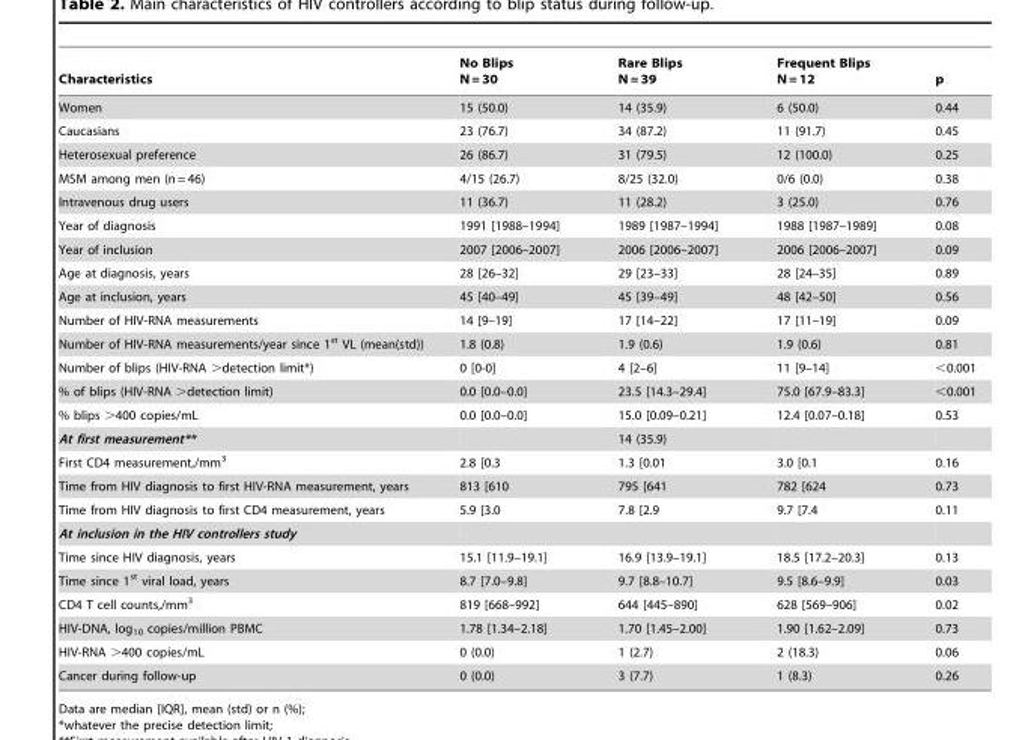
<table><thead><tr><td>Characteristics</td><td>No Blips N = 30</td><td>Rare Blips N = 39</td><td>Frequent Blips N = 12</td><td>p</td></tr></thead><tbody><tr><td>Women</td><td>15 (50.0)</td><td>14 (35.9)</td><td>6 (50.0)</td><td>0.44</td></tr><tr><td>Caucasians</td><td>23 (76.7)</td><td>34 (87.2)</td><td>11 (91.7)</td><td>0.45</td></tr><tr><td>Heterosexual preference</td><td>26 (86.7)</td><td>31 (79.5)</td><td>12 (100.0)</td><td>0.25</td></tr><tr><td>MSM among men (n = 46)</td><td>4/15 (26.7)</td><td>8/25 (32.0)</td><td>0/6 (0.0)</td><td>0.38</td></tr><tr><td>Intravenous drug users</td><td>11 (36.7)</td><td>11 (28.2)</td><td>3 (25.0)</td><td>0.76</td></tr><tr><td>Year of diagnosis</td><td>1991 [1988–1994]</td><td>1989 [1987–1994]</td><td>1988 [1987–1989]</td><td>0.08</td></tr><tr><td>Year of inclusion</td><td>2007 [2006–2007]</td><td>2006 [2006–2007]</td><td>2006 [2006–2007]</td><td>0.09</td></tr><tr><td>Age at diagnosis, years</td><td>28 [26–32]</td><td>29 [23–33]</td><td>28 [24–35]</td><td>0.89</td></tr><tr><td>Age at inclusion, years</td><td>45 [40–49]</td><td>45 [39–49]</td><td>48 [42–50]</td><td>0.56</td></tr><tr><td>Number of HIV-RNA measurements</td><td>14 [9–19]</td><td>17 [14–22]</td><td>17 [11–19]</td><td>0.09</td></tr><tr><td>Number of HIV-RNA measurements/year since 1<sup>st</sup> VL (mean(std))</td><td>1.8 (0.8)</td><td>1.9 (0.6)</td><td>1.9 (0.6)</td><td>0.81</td></tr><tr><td>Number of blips (HIV-RNA &gt;detection limit*)</td><td>0 [0-0]</td><td>4 [2–6]</td><td>11 [9–14]</td><td>&lt;0.001</td></tr><tr><td>% of blips (HIV-RNA &gt;detection limit)</td><td>0.0 [0.0–0.0]</td><td>23.5 [14.3–29.4]</td><td>75.0 [67.9–83.3]</td><td>&lt;0.001</td></tr><tr><td>% blips &gt;400 copies/mL</td><td>0.0 [0.0–0.0]</td><td>15.0 [0.09–0.21]</td><td>12.4 [0.07–0.18]</td><td>0.53</td></tr><tr><td>At first measurement**</td><td></td><td>14 (35.9)</td><td></td><td></td></tr><tr><td>First CD4 measurement,/mm<sup>3</sup></td><td>2.8 [0.3</td><td>1.3 [0.01</td><td>3.0 [0.1</td><td>0.16</td></tr><tr><td>Time from HIV diagnosis to first HIV-RNA measurement, years</td><td>813 [610</td><td>795 [641</td><td>782 [624</td><td>0.73</td></tr><tr><td>Time from HIV diagnosis to first CD4 measurement, years</td><td>5.9 [3.0</td><td>7.8 [2.9</td><td>9.7 [7.4</td><td>0.11</td></tr><tr><td colspan="5">At inclusion in the HIV controllers study</td></tr><tr><td>Time since HIV diagnosis, years</td><td>15.1 [11.9–19.1]</td><td>16.9 [13.9–19.1]</td><td>18.5 [17.2–20.3]</td><td>0.13</td></tr><tr><td>Time since 1<sup>st</sup> viral load, years</td><td>8.7 [7.0–9.8]</td><td>9.7 [8.8–10.7]</td><td>9.5 [8.6–9.9]</td><td>0.03</td></tr><tr><td>CD4 T cell counts,/mm<sup>3</sup></td><td>819 [668–992]</td><td>644 [445–890]</td><td>628 [569–906]</td><td>0.02</td></tr><tr><td>HIV-DNA, log<sub>10</sub> copies/million PBMC</td><td>1.78 [1.34–2.18]</td><td>1.70 [1.45–2.00]</td><td>1.90 [1.62–2.09]</td><td>0.73</td></tr><tr><td>HIV-RNA &gt;400 copies/mL</td><td>0 (0.0)</td><td>1 (2.7)</td><td>2 (18.3)</td><td>0.06</td></tr><tr><td>Cancer during follow-up</td><td>0 (0.0)</td><td>3 (7.7)</td><td>1 (8.3)</td><td>0.26</td></tr></tbody></table>